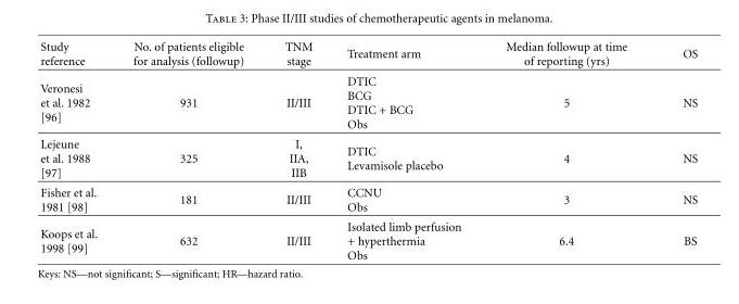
<table><thead><tr><td>Study reference</td><td>No. of patients eligible for analysis (followup)</td><td>TNM stage</td><td>Treatment arm</td><td>Median followup at time of reporting (yrs)</td><td>OS</td></tr></thead><tbody><tr><td>Veronesi et al. 1982 [96]</td><td>931</td><td>II/III</td><td>DTIC BCG DTIC + BCG Obs</td><td>5</td><td>NS</td></tr><tr><td>Lejeune et al. 1988 [97]</td><td>325</td><td>I, IIA, IIB</td><td>DTIC Levamisole placebo</td><td>4</td><td>NS</td></tr><tr><td>Fisher et al. 1981 [98]</td><td>181</td><td>II/III</td><td>CCNU Obs</td><td>3</td><td>NS</td></tr><tr><td>Koops et al. 1998 [99]</td><td>632</td><td>II/III</td><td>Isolated limb perfusion + hyperthermia Obs</td><td>6.4</td><td>BS</td></tr></tbody></table>